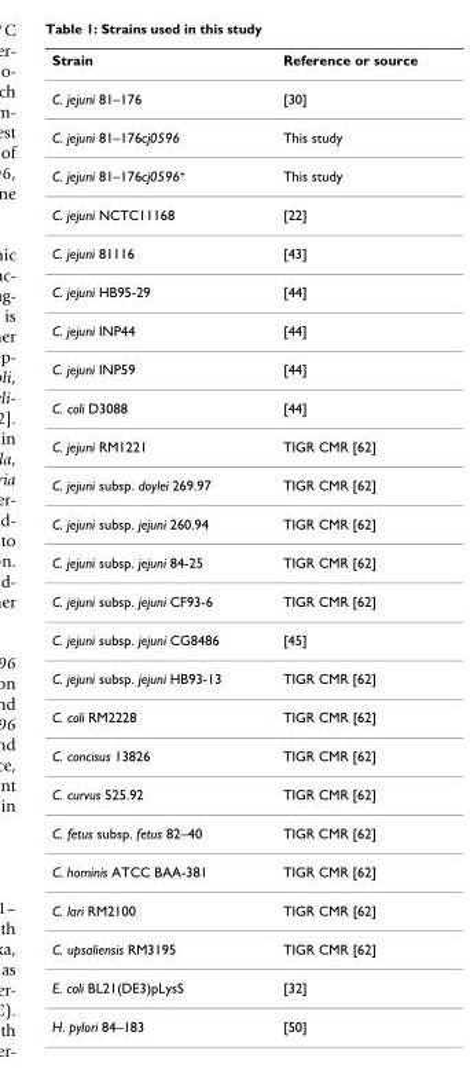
<table><thead><tr><td>Strain</td><td>Reference or source</td></tr></thead><tbody><tr><td>C. jejuni 81–176</td><td>[30]</td></tr><tr><td>C. jejuni 81–176cj0596</td><td>This study</td></tr><tr><td>C. jejuni 81–176cj0596<sup>+</sup></td><td>This study</td></tr><tr><td>C. jejuni NCTC11168</td><td>[22]</td></tr><tr><td>C. jejuni 81116</td><td>[43]</td></tr><tr><td>C. jejuni HB95-29</td><td>[44]</td></tr><tr><td>C. jejuni INP44</td><td>[44]</td></tr><tr><td>C. jejuni INP59</td><td>[44]</td></tr><tr><td>C. coli D3088</td><td>[44]</td></tr><tr><td>C. jejuni RM1221</td><td>TIGR CMR [62]</td></tr><tr><td>C. jejuni subsp. doylei 269.97</td><td>TIGR CMR [62]</td></tr><tr><td>C. jejuni subsp. jejuni 260.94</td><td>TIGR CMR [62]</td></tr><tr><td>C. jejuni subsp. jejuni 84-25</td><td>TIGR CMR [62]</td></tr><tr><td>C. jejuni subsp. jejuni CF93-6</td><td>TIGR CMR [62]</td></tr><tr><td>C. jejuni subsp. jejuni CG8486</td><td>[45]</td></tr><tr><td>C. jejuni subsp. jejuni HB93-13</td><td>TIGR CMR [62]</td></tr><tr><td>C. coli RM2228</td><td>TIGR CMR [62]</td></tr><tr><td>C. concisus 13826</td><td>TIGR CMR [62]</td></tr><tr><td>C. curvus 525.92</td><td>TIGR CMR [62]</td></tr><tr><td>C. fetus subsp. fetus 82–40</td><td>TIGR CMR [62]</td></tr><tr><td>C. hominis ATCC BAA-381</td><td>TIGR CMR [62]</td></tr><tr><td>C. lari RM2100</td><td>TIGR CMR [62]</td></tr><tr><td>C. upsaliensis RM3195</td><td>TIGR CMR [62]</td></tr><tr><td>E. coli BL21(DE3)pLysS</td><td>[32]</td></tr><tr><td>H. pylori 84–183</td><td>[50]</td></tr></tbody></table>